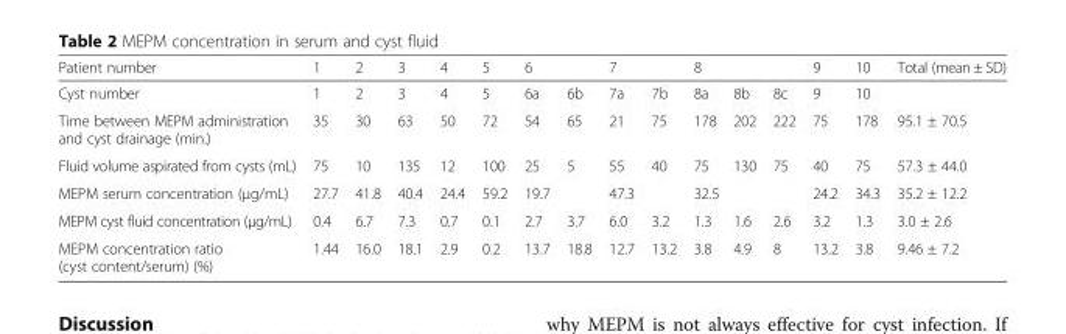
<table><thead><tr><td rowspan="2">Patient number Cyst number</td><td rowspan="2">1 1</td><td rowspan="2">2 2</td><td rowspan="2">3 3</td><td rowspan="2">4 4</td><td rowspan="2">5 5</td><td colspan="2">6</td><td colspan="2">7</td><td colspan="3">8</td><td rowspan="2">9 9</td><td rowspan="2">10 10</td><td rowspan="2">Total (mean ± SD)</td></tr><tr><td>6a</td><td>6b</td><td>7a</td><td>7b</td><td>8a</td><td>8b</td><td>8c</td></tr></thead><tbody><tr><td>Time between MEPM administration and cyst drainage (min.)</td><td>35</td><td>30</td><td>63</td><td>50</td><td>72</td><td>54</td><td>65</td><td>21</td><td>75</td><td>178</td><td>202</td><td>222</td><td>75</td><td>178</td><td>95.1 ± 70.5</td></tr><tr><td>Fluid volume aspirated from cysts (mL)</td><td>75</td><td>10</td><td>135</td><td>12</td><td>100</td><td>25</td><td>5</td><td>55</td><td>40</td><td>75</td><td>130</td><td>75</td><td>40</td><td>75</td><td>57.3 ± 44.0</td></tr><tr><td>MEPM serum concentration (μg/mL)</td><td>27.7</td><td>41.8</td><td>40.4</td><td>24.4</td><td>59.2</td><td colspan="2">19.7</td><td colspan="2">47.3</td><td colspan="3">32.5</td><td>24.2</td><td>34.3</td><td>35.2 ± 12.2</td></tr><tr><td>MEPM cyst fluid concentration (μg/mL)</td><td>0.4</td><td>6.7</td><td>7.3</td><td>0.7</td><td>0.1</td><td>2.7</td><td>3.7</td><td>6.0</td><td>3.2</td><td>1.3</td><td>1.6</td><td>2.6</td><td>3.2</td><td>1.3</td><td>3.0 ± 2.6</td></tr><tr><td>MEPM concentration ratio (cyst content/serum) (%)</td><td>1.44</td><td>16.0</td><td>18.1</td><td>2.9</td><td>0.2</td><td>13.7</td><td>18.8</td><td>12.7</td><td>13.2</td><td>3.8</td><td>4.9</td><td>8</td><td>13.2</td><td>3.8</td><td>9.46 ± 7.2</td></tr></tbody></table>